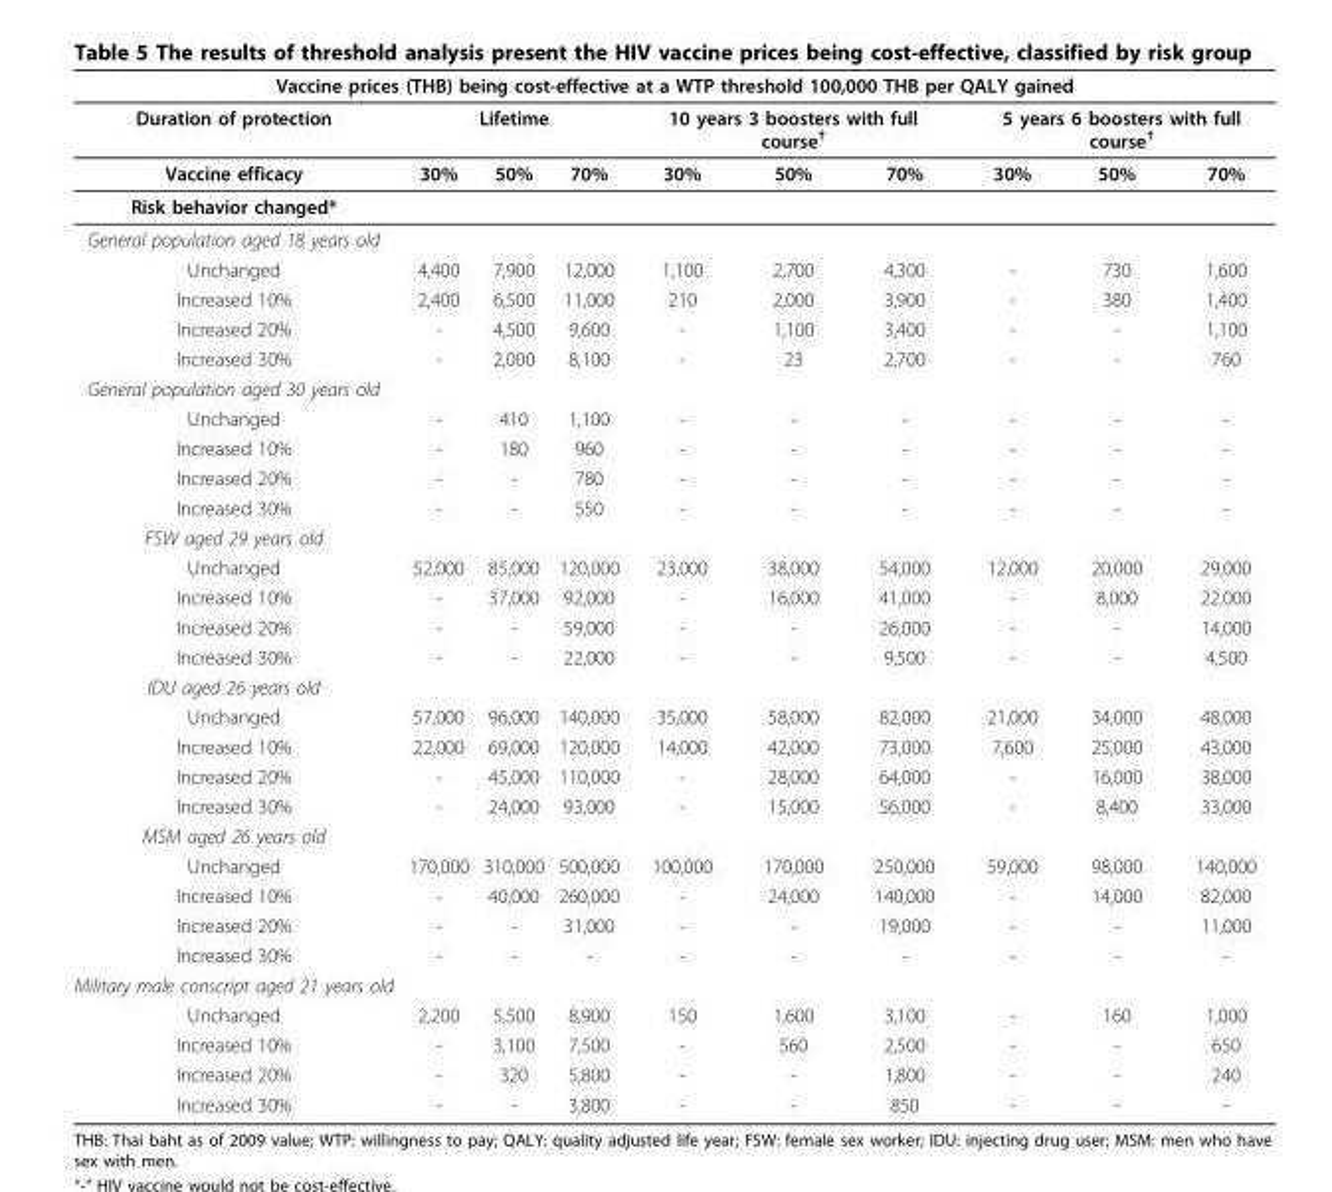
<table><thead><tr><td colspan="10">Vaccine prices (THB) being cost-effective at a WTP threshold 100,000 THB per QALY gained</td></tr><tr><td rowspan="2">Duration of protection Vaccine efficacy</td><td colspan="3">Lifetime</td><td colspan="3">10 years 3 boosters with full course<sup>†</sup></td><td colspan="3">5 years 6 boosters with full course<sup>†</sup></td></tr><tr><td>30%</td><td>50%</td><td>70%</td><td>30%</td><td>50%</td><td>70%</td><td>30%</td><td>50%</td><td>70%</td></tr></thead><tbody><tr><td colspan="10">Risk behavior changed*</td></tr><tr><td colspan="10">General population aged 18 years old</td></tr><tr><td>Unchanged</td><td>4,400</td><td>7,900</td><td>12,000</td><td>1,100</td><td>2,700</td><td>4,300</td><td>-</td><td>730</td><td>1,600</td></tr><tr><td>Increased 10%</td><td>2,400</td><td>6,500</td><td>11,000</td><td>210</td><td>2,000</td><td>3,900</td><td>-</td><td>380</td><td>1,400</td></tr><tr><td>Increased 20%</td><td>-</td><td>4,500</td><td>9,600</td><td>-</td><td>1,100</td><td>3,400</td><td>-</td><td>-</td><td>1,100</td></tr><tr><td>Increased 30%</td><td>-</td><td>2,000</td><td>8,100</td><td>-</td><td>23</td><td>2,700</td><td>-</td><td>-</td><td>760</td></tr><tr><td colspan="10">General population aged 30 years old</td></tr><tr><td>Unchanged</td><td>-</td><td>410</td><td>1,100</td><td>-</td><td>-</td><td>-</td><td>-</td><td>-</td><td>-</td></tr><tr><td>Increased 10%</td><td>-</td><td>180</td><td>960</td><td>-</td><td>-</td><td>-</td><td>-</td><td>-</td><td>-</td></tr><tr><td>Increased 20%</td><td>-</td><td>-</td><td>780</td><td>-</td><td>-</td><td>-</td><td>-</td><td>-</td><td>-</td></tr><tr><td>Increased 30%</td><td>-</td><td>-</td><td>550</td><td>-</td><td>-</td><td>-</td><td>-</td><td>-</td><td>-</td></tr><tr><td colspan="10">FSW aged 29 years old</td></tr><tr><td>Unchanged</td><td>52,000</td><td>85,000</td><td>120,000</td><td>23,000</td><td>38,000</td><td>54,000</td><td>12,000</td><td>20,000</td><td>29,000</td></tr><tr><td>Increased 10%</td><td>-</td><td>37,000</td><td>92,000</td><td>-</td><td>16,000</td><td>41,000</td><td>-</td><td>8,000</td><td>22,000</td></tr><tr><td>Increased 20%</td><td>-</td><td>-</td><td>59,000</td><td>-</td><td>-</td><td>26,000</td><td>-</td><td>-</td><td>14,000</td></tr><tr><td>Increased 30%</td><td>-</td><td>-</td><td>22,000</td><td>-</td><td>-</td><td>9,500</td><td>-</td><td>-</td><td>4,500</td></tr><tr><td colspan="10">IDU aged 26 years old</td></tr><tr><td>Unchanged</td><td>57,000</td><td>96,000</td><td>140,000</td><td>35,000</td><td>58,000</td><td>82,000</td><td>21,000</td><td>34,000</td><td>48,000</td></tr><tr><td>Increased 10%</td><td>22,000</td><td>69,000</td><td>120,000</td><td>14,000</td><td>42,000</td><td>73,000</td><td>7,600</td><td>25,000</td><td>43,000</td></tr><tr><td>Increased 20%</td><td>-</td><td>45,000</td><td>110,000</td><td>-</td><td>28,000</td><td>64,000</td><td>-</td><td>16,000</td><td>38,000</td></tr><tr><td>Increased 30%</td><td>-</td><td>24,000</td><td>93,000</td><td>-</td><td>15,000</td><td>56,000</td><td>-</td><td>8,400</td><td>33,000</td></tr><tr><td colspan="10">MSM aged 26 years old</td></tr><tr><td>Unchanged</td><td>170,000</td><td>310,000</td><td>500,000</td><td>100,000</td><td>170,000</td><td>250,000</td><td>59,000</td><td>98,000</td><td>140,000</td></tr><tr><td>Increased 10%</td><td>-</td><td>40,000</td><td>260,000</td><td>-</td><td>24,000</td><td>140,000</td><td>-</td><td>14,000</td><td>82,000</td></tr><tr><td>Increased 20%</td><td>-</td><td>-</td><td>31,000</td><td>-</td><td>-</td><td>19,000</td><td>-</td><td>-</td><td>11,000</td></tr><tr><td>Increased 30%</td><td>-</td><td>-</td><td>-</td><td>-</td><td>-</td><td>-</td><td>-</td><td>-</td><td>-</td></tr><tr><td colspan="10">Military male conscript aged 21 years old</td></tr><tr><td>Unchanged</td><td>2,200</td><td>5,500</td><td>8,900</td><td>150</td><td>1,600</td><td>3,100</td><td>-</td><td>160</td><td>1,000</td></tr><tr><td>Increased 10%</td><td>-</td><td>3,100</td><td>7,500</td><td>-</td><td>560</td><td>2,500</td><td>-</td><td>-</td><td>650</td></tr><tr><td>Increased 20%</td><td>-</td><td>320</td><td>5,800</td><td>-</td><td>-</td><td>1,800</td><td>-</td><td>-</td><td>240</td></tr><tr><td>Increased 30%</td><td>-</td><td>-</td><td>3,800</td><td>-</td><td>-</td><td>850</td><td>-</td><td>-</td><td>-</td></tr></tbody></table>